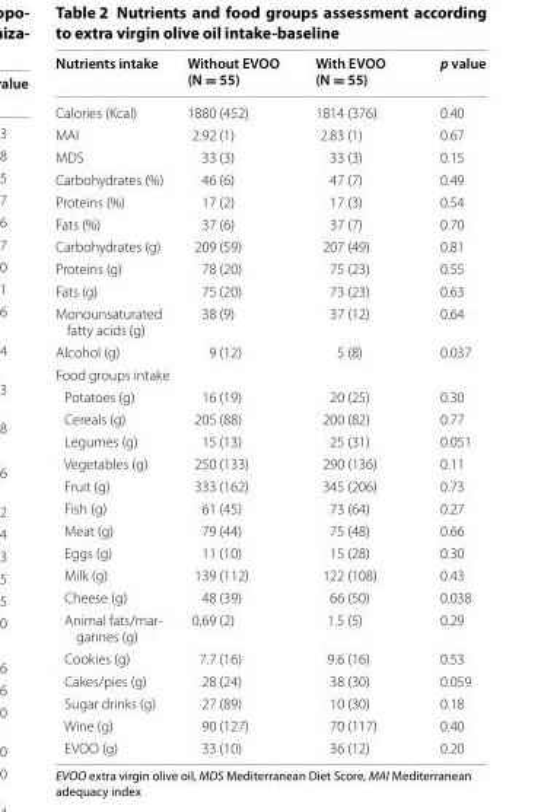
<table><thead><tr><td>Nutrients intake</td><td>Without EVOO (N = 55)</td><td>With EVOO (N = 55)</td><td>p value</td></tr></thead><tbody><tr><td>Calories (Kcal)</td><td>1880 (452)</td><td>1814 (376)</td><td>0.40</td></tr><tr><td>MAI</td><td>2.92 (1)</td><td>2.83 (1)</td><td>0.67</td></tr><tr><td>MDS</td><td>33 (3)</td><td>33 (3)</td><td>0.15</td></tr><tr><td>Carbohydrates (%)</td><td>46 (6)</td><td>47 (7)</td><td>0.49</td></tr><tr><td>Proteins (%)</td><td>17 (2)</td><td>17 (3)</td><td>0.54</td></tr><tr><td>Fats (%)</td><td>37 (6)</td><td>37 (7)</td><td>0.70</td></tr><tr><td>Carbohydrates (g)</td><td>209 (59)</td><td>207 (49)</td><td>0.81</td></tr><tr><td>Proteins (g)</td><td>78 (20)</td><td>75 (23)</td><td>0.55</td></tr><tr><td>Fats (g)</td><td>75 (20)</td><td>73 (23)</td><td>0.63</td></tr><tr><td>Monounsaturated fatty acids (g)</td><td>38 (9)</td><td>37 (12)</td><td>0.64</td></tr><tr><td>Alcohol (g)</td><td>9 (12)</td><td>5 (8)</td><td>0.037</td></tr><tr><td colspan="4">Food groups intake</td></tr><tr><td>Potatoes (g)</td><td>16 (19)</td><td>20 (25)</td><td>0.30</td></tr><tr><td>Cereals (g)</td><td>205 (88)</td><td>200 (82)</td><td>0.77</td></tr><tr><td>Legumes (g)</td><td>15 (13)</td><td>25 (31)</td><td>0.051</td></tr><tr><td>Vegetables (g)</td><td>250 (133)</td><td>290 (136)</td><td>0.11</td></tr><tr><td>Fruit (g)</td><td>333 (162)</td><td>345 (206)</td><td>0.73</td></tr><tr><td>Fish (g)</td><td>61 (45)</td><td>73 (64)</td><td>0.27</td></tr><tr><td>Meat (g)</td><td>79 (44)</td><td>75 (48)</td><td>0.66</td></tr><tr><td>Eggs (g)</td><td>11 (10)</td><td>15 (28)</td><td>0.30</td></tr><tr><td>Milk (g)</td><td>139 (112)</td><td>122 (108)</td><td>0.43</td></tr><tr><td>Cheese (g)</td><td>48 (39)</td><td>66 (50)</td><td>0.038</td></tr><tr><td>Animal fats/mar- garines (g)</td><td>0.69 (2)</td><td>1.5 (5)</td><td>0.29</td></tr><tr><td>Cookies (g)</td><td>7.7 (16)</td><td>9.6 (16)</td><td>0.53</td></tr><tr><td>Cakes/pies (g)</td><td>28 (24)</td><td>38 (30)</td><td>0.059</td></tr><tr><td>Sugar drinks (g)</td><td>27 (89)</td><td>10 (30)</td><td>0.18</td></tr><tr><td>Wine (g)</td><td>90 (127)</td><td>70 (117)</td><td>0.40</td></tr><tr><td>EVOO (g)</td><td>33 (10)</td><td>36 (12)</td><td>0.20</td></tr></tbody></table>